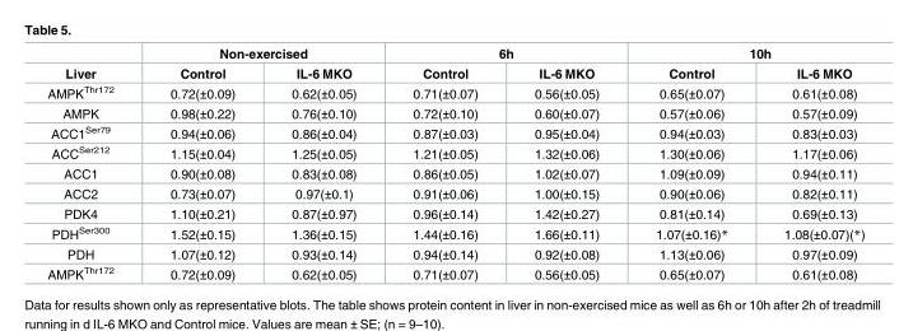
<table><thead><tr><td rowspan="2">Liver</td><td colspan="2">Non-exercised</td><td colspan="2">6h</td><td colspan="2">10h</td></tr><tr><td>Control</td><td>IL-6 MKO</td><td>Control</td><td>IL-6 MKO</td><td>Control</td><td>IL-6 MKO</td></tr></thead><tbody><tr><td>AMPK<sup>Thr172</sup></td><td>0.72(±0.09)</td><td>0.62(±0.05)</td><td>0.71(±0.07)</td><td>0.56(±0.05)</td><td>0.65(±0.07)</td><td>0.61(±0.08)</td></tr><tr><td>AMPK</td><td>0.98(±0.22)</td><td>0.76(±0.10)</td><td>0.72(±0.10)</td><td>0.60(±0.07)</td><td>0.57(±0.06)</td><td>0.57(±0.09)</td></tr><tr><td>ACC1<sup>Ser79</sup></td><td>0.94(±0.06)</td><td>0.86(±0.04)</td><td>0.87(±0.03)</td><td>0.95(±0.04)</td><td>0.94(±0.03)</td><td>0.83(±0.03)</td></tr><tr><td>ACC<sup>Ser212</sup></td><td>1.15(±0.04)</td><td>1.25(±0.05)</td><td>1.21(±0.05)</td><td>1.32(±0.06)</td><td>1.30(±0.06)</td><td>1.17(±0.06)</td></tr><tr><td>ACC1</td><td>0.90(±0.08)</td><td>0.83(±0.08)</td><td>0.86(±0.05)</td><td>1.02(±0.07)</td><td>1.09(±0.09)</td><td>0.94(±0.11)</td></tr><tr><td>ACC2</td><td>0.73(±0.07)</td><td>0.97(±0.1)</td><td>0.91(±0.06)</td><td>1.00(±0.15)</td><td>0.90(±0.06)</td><td>0.82(±0.11)</td></tr><tr><td>PDK4</td><td>1.10(±0.21)</td><td>0.87(±0.97)</td><td>0.96(±0.14)</td><td>1.42(±0.27)</td><td>0.81(±0.14)</td><td>0.69(±0.13)</td></tr><tr><td>PDH<sup>Ser300</sup></td><td>1.52(±0.15)</td><td>1.36(±0.15)</td><td>1.44(±0.16)</td><td>1.66(±0.11)</td><td>1.07(±0.16)*</td><td>1.08(±0.07)(*)</td></tr><tr><td>PDH</td><td>1.07(±0.12)</td><td>0.93(±0.14)</td><td>0.94(±0.14)</td><td>0.92(±0.08)</td><td>1.13(±0.06)</td><td>0.97(±0.09)</td></tr><tr><td>AMPK<sup>Thr172</sup></td><td>0.72(±0.09)</td><td>0.62(±0.05)</td><td>0.71(±0.07)</td><td>0.56(±0.05)</td><td>0.65(±0.07)</td><td>0.61(±0.08)</td></tr></tbody></table>